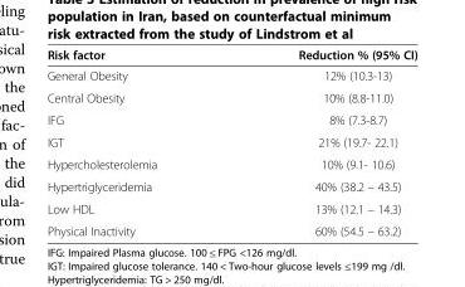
<table><thead><tr><td>Risk factor</td><td>Reduction % (95% CI)</td></tr></thead><tbody><tr><td>General Obesity</td><td>12% (10.3-13)</td></tr><tr><td>Central Obesity</td><td>10% (8.8-11.0)</td></tr><tr><td>IFG</td><td>8% (7.3-8.7)</td></tr><tr><td>IGT</td><td>21% (19.7- 22.1)</td></tr><tr><td>Hypercholesterolemia</td><td>10% (9.1- 10.6)</td></tr><tr><td>Hypertriglyceridemia</td><td>40% (38.2 – 43.5)</td></tr><tr><td>Low HDL</td><td>13% (12.1 – 14.3)</td></tr><tr><td>Physical Inactivity</td><td>60% (54.5 – 63.2)</td></tr></tbody></table>